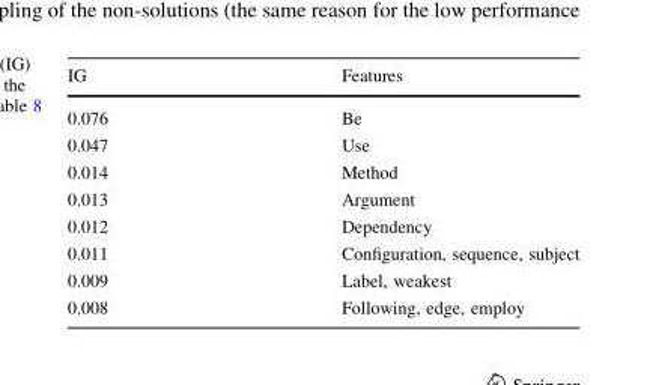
<table><thead><tr><td>IG</td><td>Features</td></tr></thead><tbody><tr><td>0.076</td><td>Be</td></tr><tr><td>0.047</td><td>Use</td></tr><tr><td>0.014</td><td>Method</td></tr><tr><td>0.013</td><td>Argument</td></tr><tr><td>0.012</td><td>Dependency</td></tr><tr><td>0.011</td><td>Configuration, sequence, subject</td></tr><tr><td>0.009</td><td>Label, weakest</td></tr><tr><td>0.008</td><td>Following, edge, employ</td></tr></tbody></table>